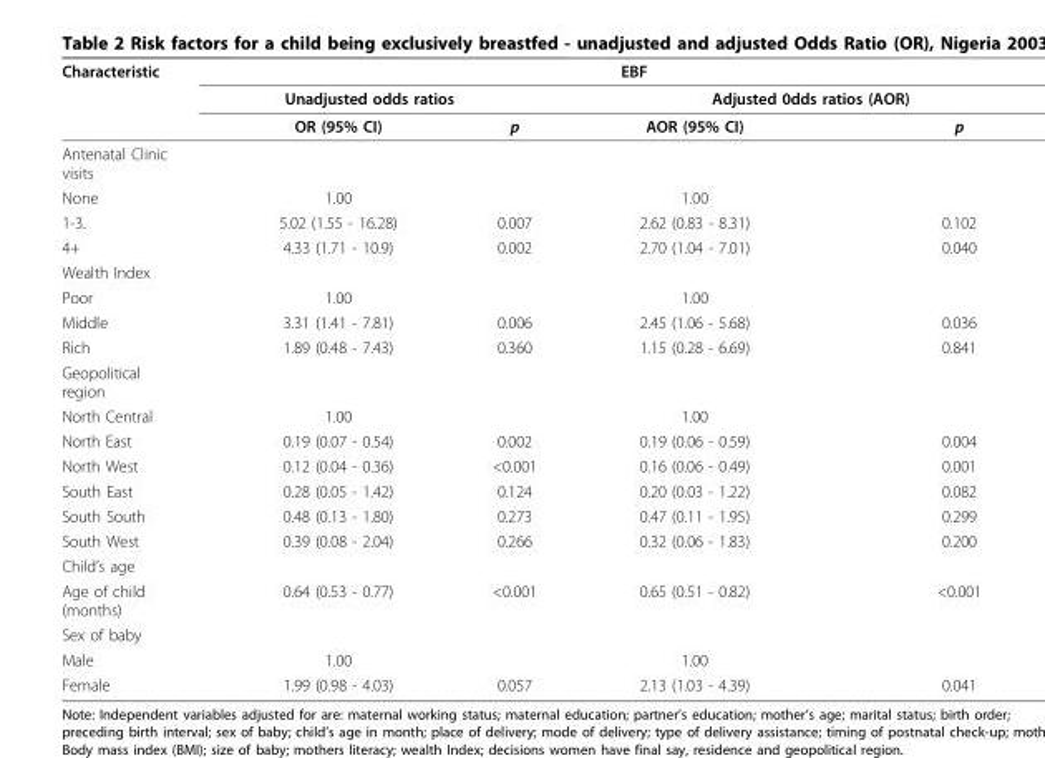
<table><thead><tr><td rowspan="3">Characteristic</td><td colspan="4">EBF</td></tr><tr><td colspan="2">Unadjusted odds ratios</td><td colspan="2">Adjusted 0dds ratios (AOR)</td></tr><tr><td>OR (95% CI)</td><td>p</td><td>AOR (95% CI)</td><td>p</td></tr></thead><tbody><tr><td colspan="5">Antenatal Clinic visits</td></tr><tr><td>None</td><td>1.00</td><td></td><td>1.00</td><td></td></tr><tr><td>1-3.</td><td>5.02 (1.55 - 16.28)</td><td>0.007</td><td>2.62 (0.83 - 8.31)</td><td>0.102</td></tr><tr><td>4+</td><td>4.33 (1.71 - 10.9)</td><td>0.002</td><td>2.70 (1.04 - 7.01)</td><td>0.040</td></tr><tr><td colspan="5">Wealth Index</td></tr><tr><td>Poor</td><td>1.00</td><td></td><td>1.00</td><td></td></tr><tr><td>Middle</td><td>3.31 (1.41 - 7.81)</td><td>0.006</td><td>2.45 (1.06 - 5.68)</td><td>0.036</td></tr><tr><td>Rich</td><td>1.89 (0.48 - 7.43)</td><td>0.360</td><td>1.15 (0.28 - 6.69)</td><td>0.841</td></tr><tr><td colspan="5">Geopolitical region</td></tr><tr><td>North Central</td><td>1.00</td><td></td><td>1.00</td><td></td></tr><tr><td>North East</td><td>0.19 (0.07 - 0.54)</td><td>0.002</td><td>0.19 (0.06 - 0.59)</td><td>0.004</td></tr><tr><td>North West</td><td>0.12 (0.04 - 0.36)</td><td>&lt;0.001</td><td>0.16 (0.06 - 0.49)</td><td>0.001</td></tr><tr><td>South East</td><td>0.28 (0.05 - 1.42)</td><td>0.124</td><td>0.20 (0.03 - 1.22)</td><td>0.082</td></tr><tr><td>South South</td><td>0.48 (0.13 - 1.80)</td><td>0.273</td><td>0.47 (0.11 - 1.95)</td><td>0.299</td></tr><tr><td>South West</td><td>0.39 (0.08 - 2.04)</td><td>0.266</td><td>0.32 (0.06 - 1.83)</td><td>0.200</td></tr><tr><td colspan="5">Child’s age</td></tr><tr><td>Age of child (months)</td><td>0.64 (0.53 - 0.77)</td><td>&lt;0.001</td><td>0.65 (0.51 - 0.82)</td><td>&lt;0.001</td></tr><tr><td colspan="5">Sex of baby</td></tr><tr><td>Male</td><td>1.00</td><td></td><td>1.00</td><td></td></tr><tr><td>Female</td><td>1.99 (0.98 - 4.03)</td><td>0.057</td><td>2.13 (1.03 - 4.39)</td><td>0.041</td></tr></tbody></table>